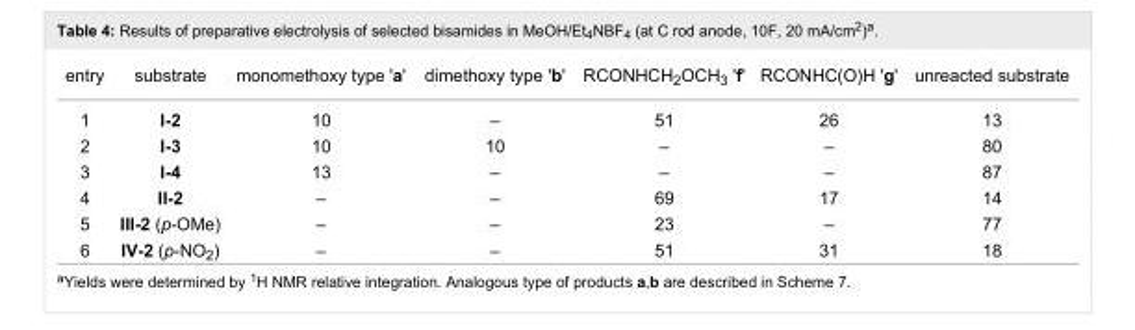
<table><tbody><tr><td>entry</td><td>substrate</td><td>monomethoxy type &#x27;a&#x27;</td><td>dimethoxy type &#x27;b&#x27;</td><td>RCONHCH<sub>2</sub>OCH<sub>3</sub> &#x27;f&#x27;</td><td>RCONHC(O)H &#x27;g&#x27;</td><td>unreacted substrate</td></tr><tr><td>1</td><td>I-2</td><td>10</td><td>–</td><td>51</td><td>26</td><td>13</td></tr><tr><td>2</td><td>I-3</td><td>10</td><td>10</td><td>–</td><td>–</td><td>80</td></tr><tr><td>3</td><td>I-4</td><td>13</td><td>–</td><td>–</td><td>–</td><td>87</td></tr><tr><td>4</td><td>II-2</td><td>–</td><td>–</td><td>69</td><td>17</td><td>14</td></tr><tr><td>5</td><td>III-2 (p-OMe)</td><td>–</td><td>–</td><td>23</td><td>–</td><td>77</td></tr><tr><td>6</td><td>IV-2 (p-NO<sub>2</sub>)</td><td>–</td><td>–</td><td>51</td><td>31</td><td>18</td></tr></tbody></table>